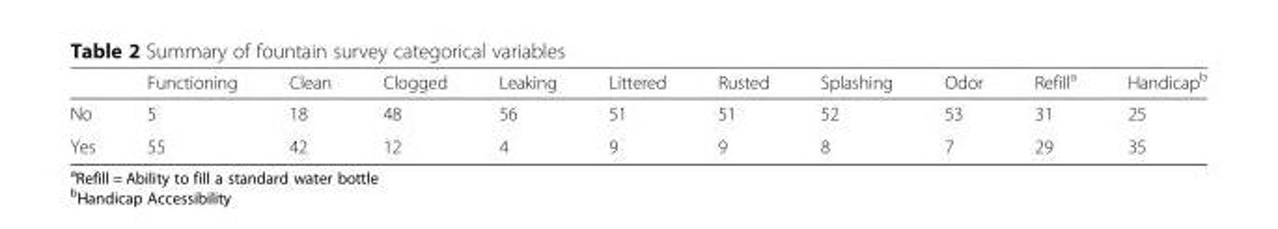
<table><thead><tr><td></td><td>Functioning</td><td>Clean</td><td>Clogged</td><td>Leaking</td><td>Littered</td><td>Rusted</td><td>Splashing</td><td>Odor</td><td>Refill<sup>a</sup></td><td>Handicap<sup>b</sup></td></tr></thead><tbody><tr><td>No</td><td>5</td><td>18</td><td>48</td><td>56</td><td>51</td><td>51</td><td>52</td><td>53</td><td>31</td><td>25</td></tr><tr><td>Yes</td><td>55</td><td>42</td><td>12</td><td>4</td><td>9</td><td>9</td><td>8</td><td>7</td><td>29</td><td>35</td></tr></tbody></table>